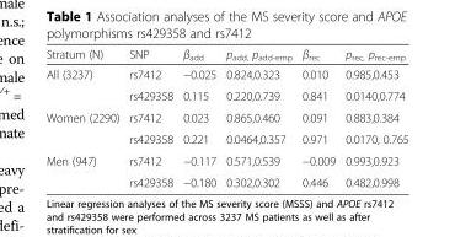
<table><thead><tr><td>Stratum (N)</td><td>SNP</td><td>β<sub>add</sub></td><td>p<sub>add,</sub> p<sub>add-emp</sub></td><td>β<sub>rec</sub></td><td>p<sub>rec,</sub> p<sub>rec-emp</sub></td></tr></thead><tbody><tr><td rowspan="2">All (3237)</td><td>rs7412</td><td>−0.025</td><td>0.824,0.323</td><td>0.010</td><td>0.985,0.453</td></tr><tr><td>rs429358</td><td>0.115</td><td>0.220,0.739</td><td>0.841</td><td>0.0140,0.774</td></tr><tr><td rowspan="2">Women (2290)</td><td>rs7412</td><td>0.023</td><td>0.865,0.460</td><td>0.091</td><td>0.883,0.384</td></tr><tr><td>rs429358</td><td>0.221</td><td>0.0464,0.357</td><td>0.971</td><td>0.0170, 0.765</td></tr><tr><td rowspan="2">Men (947)</td><td>rs7412</td><td>−0.117</td><td>0.571,0.539</td><td>−0.009</td><td>0.993,0.923</td></tr><tr><td>rs429358</td><td>−0.180</td><td>0.302,0.302</td><td>0.446</td><td>0.482,0.998</td></tr></tbody></table>